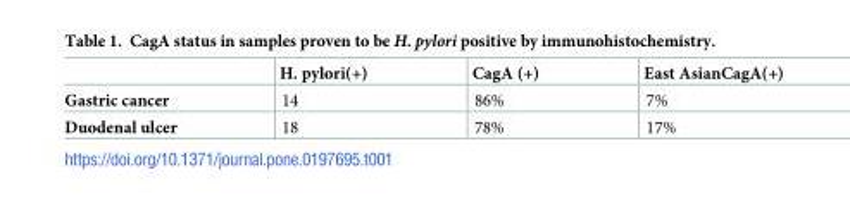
<table><thead><tr><td></td><td>H. pylori(+)</td><td>CagA (+)</td><td>East AsianCagA(+)</td></tr></thead><tbody><tr><td>Gastric cancer</td><td>14</td><td>86%</td><td>7%</td></tr><tr><td>Duodenal ulcer</td><td>18</td><td>78%</td><td>17%</td></tr></tbody></table>